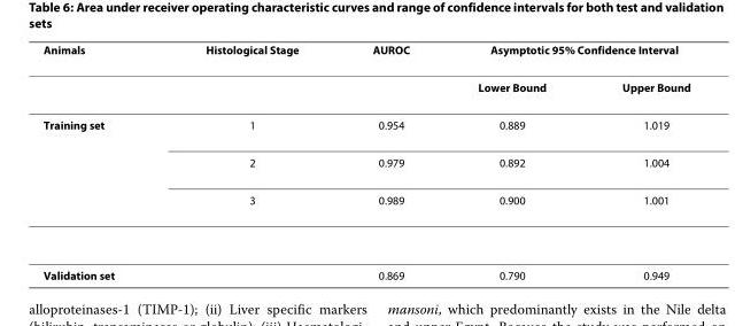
<table><thead><tr><td rowspan="2">Animals</td><td rowspan="2">Histological Stage</td><td rowspan="2">AUROC</td><td colspan="2">Asymptotic 95% Confidence Interval</td></tr><tr><td>Lower Bound</td><td>Upper Bound</td></tr></thead><tbody><tr><td rowspan="3">Training set</td><td>1</td><td>0.954</td><td>0.889</td><td>1.019</td></tr><tr><td>2</td><td>0.979</td><td>0.892</td><td>1.004</td></tr><tr><td>3</td><td>0.989</td><td>0.900</td><td>1.001</td></tr><tr><td>Validation set</td><td></td><td>0.869</td><td>0.790</td><td>0.949</td></tr></tbody></table>